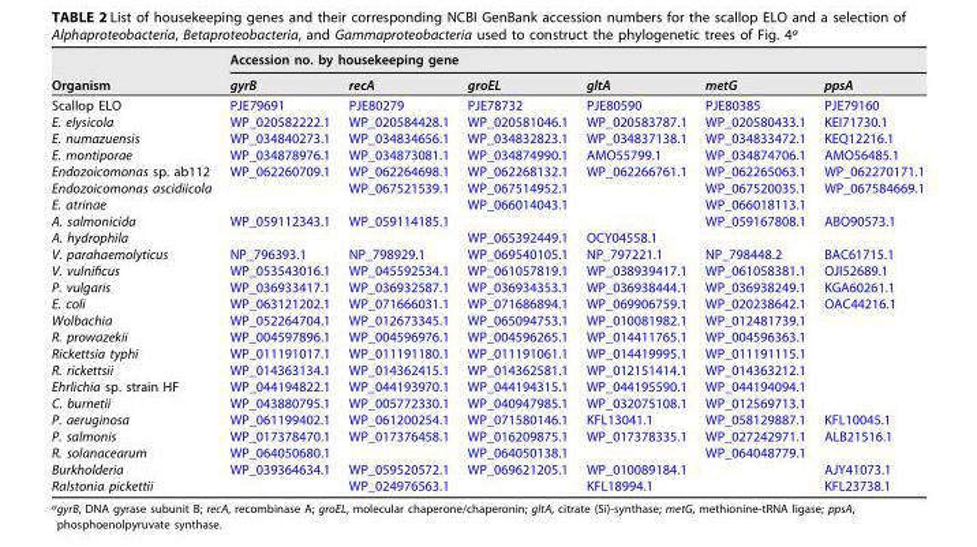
<table><thead><tr><td rowspan="2">Organism</td><td colspan="6">Accession no. by housekeeping gene</td></tr><tr><td>gyrB</td><td>recA</td><td>groEL</td><td>gltA</td><td>metG</td><td>ppsA</td></tr></thead><tbody><tr><td>Scallop ELO</td><td>PJE79691</td><td>PJE80279</td><td>PJE78732</td><td>PJE80590</td><td>PJE80385</td><td>PJE79160</td></tr><tr><td>E. elysicola</td><td>WP_020582222.1</td><td>WP_020584428.1</td><td>WP_020581046.1</td><td>WP_020583787.1</td><td>WP_020580433.1</td><td>KEI71730.1</td></tr><tr><td>E. numazuensis</td><td>WP_034840273.1</td><td>WP_034834656.1</td><td>WP_034832823.1</td><td>WP_034837138.1</td><td>WP_034833472.1</td><td>KEQ12216.1</td></tr><tr><td>E. montiporae</td><td>WP_034878976.1</td><td>WP_034873081.1</td><td>WP_034874990.1</td><td>AMO55799.1</td><td>WP_034874706.1</td><td>AMO56485.1</td></tr><tr><td>Endozoicomonas sp. ab112</td><td>WP_062260709.1</td><td>WP_062264698.1</td><td>WP_062268132.1</td><td>WP_062266761.1</td><td>WP_062265063.1</td><td>WP_062270171.1</td></tr><tr><td>Endozoicomonas ascidiicola</td><td></td><td>WP_067521539.1</td><td>WP_067514952.1</td><td></td><td>WP_067520035.1</td><td>WP_067584669.1</td></tr><tr><td>E. atrinae</td><td></td><td></td><td>WP_066014043.1</td><td></td><td>WP_066018113.1</td><td></td></tr><tr><td>A. salmonicida</td><td>WP_059112343.1</td><td>WP_059114185.1</td><td></td><td></td><td>WP_059167808.1</td><td>ABO90573.1</td></tr><tr><td>A. hydrophila</td><td></td><td></td><td>WP_065392449.1</td><td>OCY04558.1</td><td></td><td></td></tr><tr><td>V. parahaemolyticus</td><td>NP_796393.1</td><td>NP_798929.1</td><td>WP_069540105.1</td><td>NP_797221.1</td><td>NP_798448.2</td><td>BAC61715.1</td></tr><tr><td>V. vulnificus</td><td>WP_053543016.1</td><td>WP_045592534.1</td><td>WP_061057819.1</td><td>WP_038939417.1</td><td>WP_061058381.1</td><td>OJI52689.1</td></tr><tr><td>P. vulgaris</td><td>WP_036933417.1</td><td>WP_036932587.1</td><td>WP_036934353.1</td><td>WP_036938444.1</td><td>WP_036938249.1</td><td>KGA60261.1</td></tr><tr><td>E. coli</td><td>WP_063121202.1</td><td>WP_071666031.1</td><td>WP_071686894.1</td><td>WP_069906759.1</td><td>WP_020238642.1</td><td>OAC44216.1</td></tr><tr><td>Wolbachia</td><td>WP_052264704.1</td><td>WP_012673345.1</td><td>WP_065094753.1</td><td>WP_010081982.1</td><td>WP_012481739.1</td><td></td></tr><tr><td>R. prowazekii</td><td>WP_004597896.1</td><td>WP_004596976.1</td><td>WP_004596265.1</td><td>WP_014411765.1</td><td>WP_004596363.1</td><td></td></tr><tr><td>Rickettsia typhi</td><td>WP_011191017.1</td><td>WP_011191180.1</td><td>WP_011191061.1</td><td>WP_014419995.1</td><td>WP_011191115.1</td><td></td></tr><tr><td>R. rickettsii</td><td>WP_014363134.1</td><td>WP_014362415.1</td><td>WP_014362581.1</td><td>WP_012151414.1</td><td>WP_014363212.1</td><td></td></tr><tr><td>Ehrlichia sp. strain HF</td><td>WP_044194822.1</td><td>WP_044193970.1</td><td>WP_044194315.1</td><td>WP_044195590.1</td><td>WP_044194094.1</td><td></td></tr><tr><td>C. burnetii</td><td>WP_043880795.1</td><td>WP_005772330.1</td><td>WP_040947985.1</td><td>WP_032075108.1</td><td>WP_012569713.1</td><td></td></tr><tr><td>P. aeruginosa</td><td>WP_061199402.1</td><td>WP_061200254.1</td><td>WP_071580146.1</td><td>KFL13041.1</td><td>WP_058129887.1</td><td>KFL10045.1</td></tr><tr><td>P. salmonis</td><td>WP_017378470.1</td><td>WP_017376458.1</td><td>WP_016209875.1</td><td>WP_017378335.1</td><td>WP_027242971.1</td><td>ALB21516.1</td></tr><tr><td>R. solanacearum</td><td>WP_064050680.1</td><td></td><td>WP_064050138.1</td><td></td><td>WP_064048779.1</td><td></td></tr><tr><td>Burkholderia</td><td>WP_039364634.1</td><td>WP_059520572.1</td><td>WP_069621205.1</td><td>WP_010089184.1</td><td></td><td>AJY41073.1</td></tr><tr><td>Ralstonia pickettii</td><td></td><td>WP_024976563.1</td><td></td><td>KFL18994.1</td><td></td><td>KFL23738.1</td></tr></tbody></table>